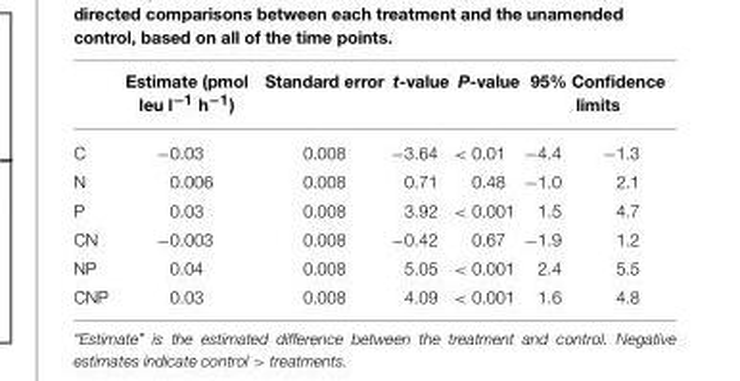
<table><thead><tr><td rowspan="2">C</td><td rowspan="2">Estimate (pmol leu l<sup>−1</sup> h<sup>−1</sup>) −0.03</td><td rowspan="2">Standard error 0.008</td><td rowspan="2">t-value −3.64</td><td rowspan="2">P-value &lt; 0.01</td><td colspan="2">95% Confidence limits</td></tr><tr><td>−4.4</td><td>−1.3</td></tr></thead><tbody><tr><td>N</td><td>0.006</td><td>0.008</td><td>0.71</td><td>0.48</td><td>−1.0</td><td>2.1</td></tr><tr><td>P</td><td>0.03</td><td>0.008</td><td>3.92</td><td>&lt; 0.001</td><td>1.5</td><td>4.7</td></tr><tr><td>CN</td><td>−0.003</td><td>0.008</td><td>−0.42</td><td>0.67</td><td>−1.9</td><td>1.2</td></tr><tr><td>NP</td><td>0.04</td><td>0.008</td><td>5.05</td><td>&lt; 0.001</td><td>2.4</td><td>5.5</td></tr><tr><td>CNP</td><td>0.03</td><td>0.008</td><td>4.09</td><td>&lt; 0.001</td><td>1.6</td><td>4.8</td></tr></tbody></table>